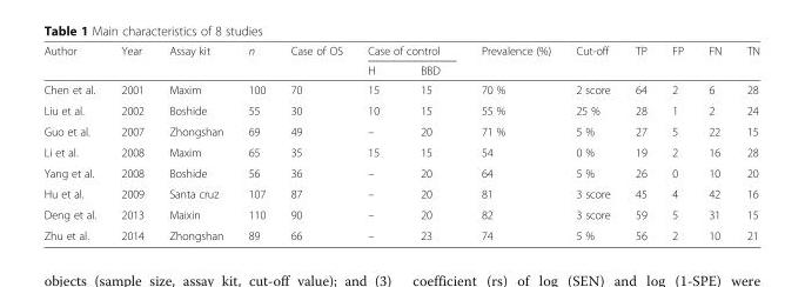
<table><thead><tr><td rowspan="2">Author</td><td rowspan="2">Year</td><td rowspan="2">Assay kit</td><td rowspan="2">n</td><td rowspan="2">Case of OS</td><td colspan="2">Case of control</td><td rowspan="2">Prevalence (%)</td><td rowspan="2">Cut-off</td><td rowspan="2">TP</td><td rowspan="2">FP</td><td rowspan="2">FN</td><td rowspan="2">TN</td></tr><tr><td>H</td><td>BBD</td></tr></thead><tbody><tr><td>Chen et al.</td><td>2001</td><td>Maxim</td><td>100</td><td>70</td><td>15</td><td>15</td><td>70 %</td><td>2 score</td><td>64</td><td>2</td><td>6</td><td>28</td></tr><tr><td>Liu et al.</td><td>2002</td><td>Boshide</td><td>55</td><td>30</td><td>10</td><td>15</td><td>55 %</td><td>25 %</td><td>28</td><td>1</td><td>2</td><td>24</td></tr><tr><td>Guo et al.</td><td>2007</td><td>Zhongshan</td><td>69</td><td>49</td><td>–</td><td>20</td><td>71 %</td><td>5 %</td><td>27</td><td>5</td><td>22</td><td>15</td></tr><tr><td>Li et al.</td><td>2008</td><td>Maxim</td><td>65</td><td>35</td><td>15</td><td>15</td><td>54</td><td>0 %</td><td>19</td><td>2</td><td>16</td><td>28</td></tr><tr><td>Yang et al.</td><td>2008</td><td>Boshide</td><td>56</td><td>36</td><td>–</td><td>20</td><td>64</td><td>5 %</td><td>26</td><td>0</td><td>10</td><td>20</td></tr><tr><td>Hu et al.</td><td>2009</td><td>Santa cruz</td><td>107</td><td>87</td><td>–</td><td>20</td><td>81</td><td>3 score</td><td>45</td><td>4</td><td>42</td><td>16</td></tr><tr><td>Deng et al.</td><td>2013</td><td>Maixin</td><td>110</td><td>90</td><td>–</td><td>20</td><td>82</td><td>3 score</td><td>59</td><td>5</td><td>31</td><td>15</td></tr><tr><td>Zhu et al.</td><td>2014</td><td>Zhongshan</td><td>89</td><td>66</td><td>–</td><td>23</td><td>74</td><td>5 %</td><td>56</td><td>2</td><td>10</td><td>21</td></tr></tbody></table>